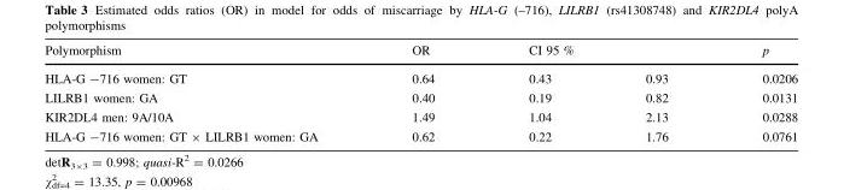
<table><thead><tr><td rowspan="2">Polymorphism HLA-G -716 women: GT</td><td rowspan="2">OR 0.64</td><td colspan="2">CI 95 %</td><td rowspan="2">p 0.0206</td></tr><tr><td>0.43</td><td>0.93</td></tr></thead><tbody><tr><td>LILRB1 women: GA</td><td>0.40</td><td>0.19</td><td>0.82</td><td>0.0131</td></tr><tr><td>KIR2DL4 men: 9A/10A</td><td>1.49</td><td>1.04</td><td>2.13</td><td>0.0288</td></tr><tr><td>HLA-G -716 women: GT × LILRB1 women: GA</td><td>0.62</td><td>0.22</td><td>1.76</td><td>0.0761</td></tr></tbody></table>